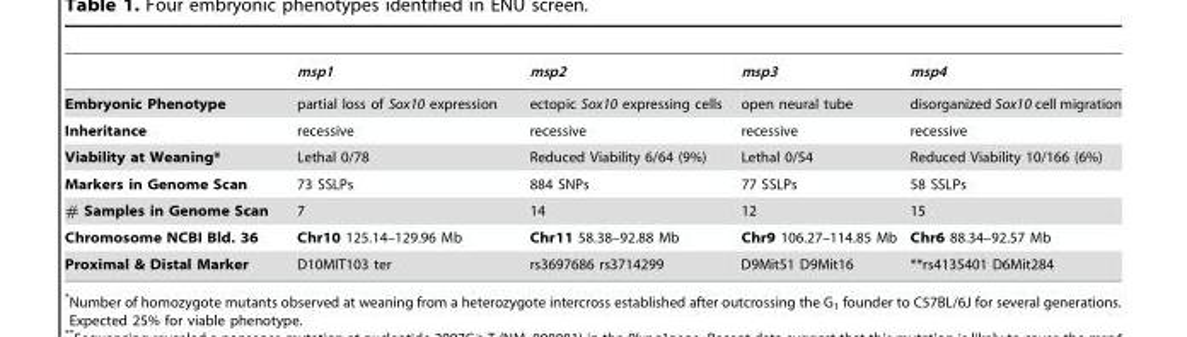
<table><thead><tr><td></td><td>msp1</td><td>msp2</td><td>msp3</td><td>msp4</td></tr></thead><tbody><tr><td>Embryonic Phenotype</td><td>partial loss of Sox10 expression</td><td>ectopic Sox10 expressing cells</td><td>open neural tube</td><td>disorganized Sox10 cell migration</td></tr><tr><td>Inheritance</td><td>recessive</td><td>recessive</td><td>recessive</td><td>recessive</td></tr><tr><td>Viability at Weaning*</td><td>Lethal 0/78</td><td>Reduced Viability 6/64 (9%)</td><td>Lethal 0/54</td><td>Reduced Viability 10/166 (6%)</td></tr><tr><td>Markers in Genome Scan</td><td>73 SSLPs</td><td>884 SNPs</td><td>77 SSLPs</td><td>58 SSLPs</td></tr><tr><td># Samples in Genome Scan</td><td>7</td><td>14</td><td>12</td><td>15</td></tr><tr><td>Chromosome NCBI Bld. 36</td><td>Chr10 125.14–129.96 Mb</td><td>Chr11 58.38–92.88 Mb</td><td>Chr9 106.27–114.85 Mb</td><td>Chr6 88.34–92.57 Mb</td></tr><tr><td>Proximal &amp; Distal Marker</td><td>D10MIT103 ter</td><td>rs3697686 rs3714299</td><td>D9Mit51 D9Mit16</td><td>**rs4135401 D6Mit284</td></tr></tbody></table>